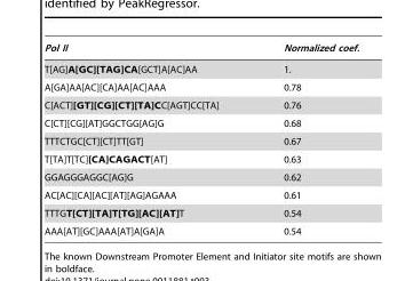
<table><thead><tr><td>Pol II</td><td>Normalized coef.</td></tr></thead><tbody><tr><td>T[AG]A[GC][TAG]CA[GCT]A[AC]AA</td><td>1.</td></tr><tr><td>A[GA]AA[AC][CA]AA[AC]AAA</td><td>0.78</td></tr><tr><td>C[ACT][GT][CG][CT][TA]CC[AGT]CC[TA]</td><td>0.76</td></tr><tr><td>C[CT][CG][AT]GGCTGG[AG]G</td><td>0.68</td></tr><tr><td>TTTCTGC[CT][CT]TT[GT]</td><td>0.67</td></tr><tr><td>T[TA]T[TC][CA]CAGACT[AT]</td><td>0.63</td></tr><tr><td>GGAGGGAGGC[AG]G</td><td>0.62</td></tr><tr><td>AC[AC][CA][AC][AT][AG]AGAAA</td><td>0.61</td></tr><tr><td>TTTGT[CT][TA]T[TG][AC][AT]T</td><td>0.54</td></tr><tr><td>AAA[AT][GC]AAA[AT]A[GA]A</td><td>0.54</td></tr></tbody></table>